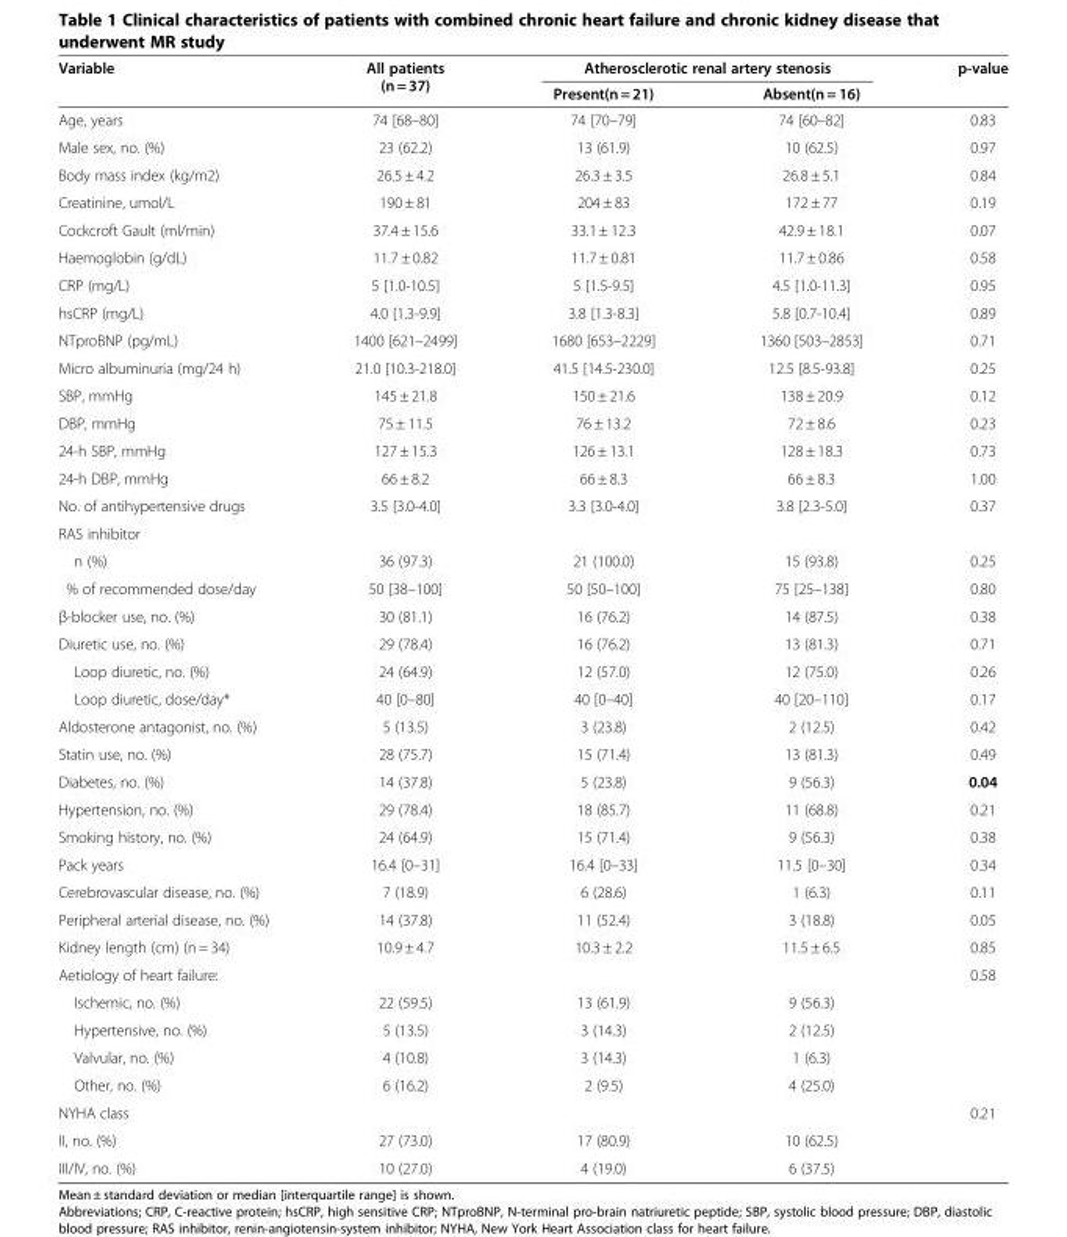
<table><thead><tr><td rowspan="2">Variable</td><td rowspan="2">All patients (n = 37)</td><td colspan="2">Atherosclerotic renal artery stenosis</td><td rowspan="2">p-value</td></tr><tr><td>Present(n = 21)</td><td>Absent(n = 16)</td></tr></thead><tbody><tr><td>Age, years</td><td>74 [68–80]</td><td>74 [70–79]</td><td>74 [60–82]</td><td>0.83</td></tr><tr><td>Male sex, no. (%)</td><td>23 (62.2)</td><td>13 (61.9)</td><td>10 (62.5)</td><td>0.97</td></tr><tr><td>Body mass index (kg/m2)</td><td>26.5 ± 4.2</td><td>26.3 ± 3.5</td><td>26.8 ± 5.1</td><td>0.84</td></tr><tr><td>Creatinine, umol/L</td><td>190 ± 81</td><td>204 ± 83</td><td>172 ± 77</td><td>0.19</td></tr><tr><td>Cockcroft Gault (ml/min)</td><td>37.4 ± 15.6</td><td>33.1 ± 12.3</td><td>42.9 ± 18.1</td><td>0.07</td></tr><tr><td>Haemoglobin (g/dL)</td><td>11.7 ± 0.82</td><td>11.7 ± 0.81</td><td>11.7 ± 0.86</td><td>0.58</td></tr><tr><td>CRP (mg/L)</td><td>5 [1.0-10.5]</td><td>5 [1.5-9.5]</td><td>4.5 [1.0-11.3]</td><td>0.95</td></tr><tr><td>hsCRP (mg/L)</td><td>4.0 [1.3-9.9]</td><td>3.8 [1.3-8.3]</td><td>5.8 [0.7-10.4]</td><td>0.89</td></tr><tr><td>NTproBNP (pg/mL)</td><td>1400 [621–2499]</td><td>1680 [653–2229]</td><td>1360 [503–2853]</td><td>0.71</td></tr><tr><td>Micro albuminuria (mg/24 h)</td><td>21.0 [10.3-218.0]</td><td>41.5 [14.5-230.0]</td><td>12.5 [8.5-93.8]</td><td>0.25</td></tr><tr><td>SBP, mmHg</td><td>145 ± 21.8</td><td>150 ± 21.6</td><td>138 ± 20.9</td><td>0.12</td></tr><tr><td>DBP, mmHg</td><td>75 ± 11.5</td><td>76 ± 13.2</td><td>72 ± 8.6</td><td>0.23</td></tr><tr><td>24-h SBP, mmHg</td><td>127 ± 15.3</td><td>126 ± 13.1</td><td>128 ± 18.3</td><td>0.73</td></tr><tr><td>24-h DBP, mmHg</td><td>66 ± 8.2</td><td>66 ± 8.3</td><td>66 ± 8.3</td><td>1.00</td></tr><tr><td>No. of antihypertensive drugs</td><td>3.5 [3.0-4.0]</td><td>3.3 [3.0-4.0]</td><td>3.8 [2.3-5.0]</td><td>0.37</td></tr><tr><td colspan="5">RAS inhibitor</td></tr><tr><td>n (%)</td><td>36 (97.3)</td><td>21 (100.0)</td><td>15 (93.8)</td><td>0.25</td></tr><tr><td>% of recommended dose/day</td><td>50 [38–100]</td><td>50 [50–100]</td><td>75 [25–138]</td><td>0.80</td></tr><tr><td>β-blocker use, no. (%)</td><td>30 (81.1)</td><td>16 (76.2)</td><td>14 (87.5)</td><td>0.38</td></tr><tr><td>Diuretic use, no. (%)</td><td>29 (78.4)</td><td>16 (76.2)</td><td>13 (81.3)</td><td>0.71</td></tr><tr><td>Loop diuretic, no. (%)</td><td>24 (64.9)</td><td>12 (57.0)</td><td>12 (75.0)</td><td>0.26</td></tr><tr><td>Loop diuretic, dose/day*</td><td>40 [0–80]</td><td>40 [0–40]</td><td>40 [20–110]</td><td>0.17</td></tr><tr><td>Aldosterone antagonist, no. (%)</td><td>5 (13.5)</td><td>3 (23.8)</td><td>2 (12.5)</td><td>0.42</td></tr><tr><td>Statin use, no. (%)</td><td>28 (75.7)</td><td>15 (71.4)</td><td>13 (81.3)</td><td>0.49</td></tr><tr><td>Diabetes, no. (%)</td><td>14 (37.8)</td><td>5 (23.8)</td><td>9 (56.3)</td><td>0.04</td></tr><tr><td>Hypertension, no. (%)</td><td>29 (78.4)</td><td>18 (85.7)</td><td>11 (68.8)</td><td>0.21</td></tr><tr><td>Smoking history, no. (%)</td><td>24 (64.9)</td><td>15 (71.4)</td><td>9 (56.3)</td><td>0.38</td></tr><tr><td>Pack years</td><td>16.4 [0–31]</td><td>16.4 [0–33]</td><td>11.5 [0–30]</td><td>0.34</td></tr><tr><td>Cerebrovascular disease, no. (%)</td><td>7 (18.9)</td><td>6 (28.6)</td><td>1 (6.3)</td><td>0.11</td></tr><tr><td>Peripheral arterial disease, no. (%)</td><td>14 (37.8)</td><td>11 (52.4)</td><td>3 (18.8)</td><td>0.05</td></tr><tr><td>Kidney length (cm) (n = 34)</td><td>10.9 ± 4.7</td><td>10.3 ± 2.2</td><td>11.5 ± 6.5</td><td>0.85</td></tr><tr><td>Aetiology of heart failure:</td><td></td><td></td><td></td><td>0.58</td></tr><tr><td>Ischemic, no. (%)</td><td>22 (59.5)</td><td>13 (61.9)</td><td>9 (56.3)</td><td></td></tr><tr><td>Hypertensive, no. (%)</td><td>5 (13.5)</td><td>3 (14.3)</td><td>2 (12.5)</td><td></td></tr><tr><td>Valvular, no. (%)</td><td>4 (10.8)</td><td>3 (14.3)</td><td>1 (6.3)</td><td></td></tr><tr><td>Other, no. (%)</td><td>6 (16.2)</td><td>2 (9.5)</td><td>4 (25.0)</td><td></td></tr><tr><td>NYHA class</td><td></td><td></td><td></td><td>0.21</td></tr><tr><td>II, no. (%)</td><td>27 (73.0)</td><td>17 (80.9)</td><td>10 (62.5)</td><td></td></tr><tr><td>III/IV, no. (%)</td><td>10 (27.0)</td><td>4 (19.0)</td><td>6 (37.5)</td><td></td></tr></tbody></table>